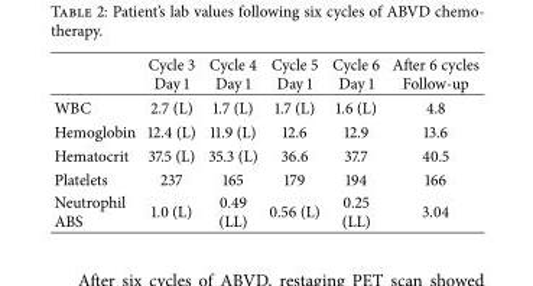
<table><thead><tr><td></td><td>Cycle 3 Day 1</td><td>Cycle 4 Day 1</td><td>Cycle 5 Day 1</td><td>Cycle 6 Day 1</td><td>After 6 cycles Follow-up</td></tr></thead><tbody><tr><td>WBC</td><td>2.7 (L)</td><td>1.7 (L)</td><td>1.7 (L)</td><td>1.6 (L)</td><td>4.8</td></tr><tr><td>Hemoglobin</td><td>12.4 (L)</td><td>11.9 (L)</td><td>12.6</td><td>12.9</td><td>13.6</td></tr><tr><td>Hematocrit</td><td>37.5 (L)</td><td>35.3 (L)</td><td>36.6</td><td>37.7</td><td>40.5</td></tr><tr><td>Platelets</td><td>237</td><td>165</td><td>179</td><td>194</td><td>166</td></tr><tr><td>Neutrophil ABS</td><td>1.0 (L)</td><td>0.49 (LL)</td><td>0.56 (L)</td><td>0.25 (LL)</td><td>3.04</td></tr></tbody></table>